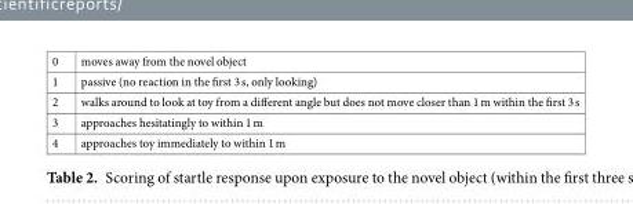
<table><tbody><tr><td>0</td><td>moves away from the novel object</td></tr><tr><td>1</td><td>passive (no reaction in the first 3 s, only looking)</td></tr><tr><td>2</td><td>walks around to look at toy from a different angle but does not move closer than 1 m within the first 3 s</td></tr><tr><td>3</td><td>approaches hesitatingly to within 1 m</td></tr><tr><td>4</td><td>approaches toy immediately to within 1 m</td></tr></tbody></table>